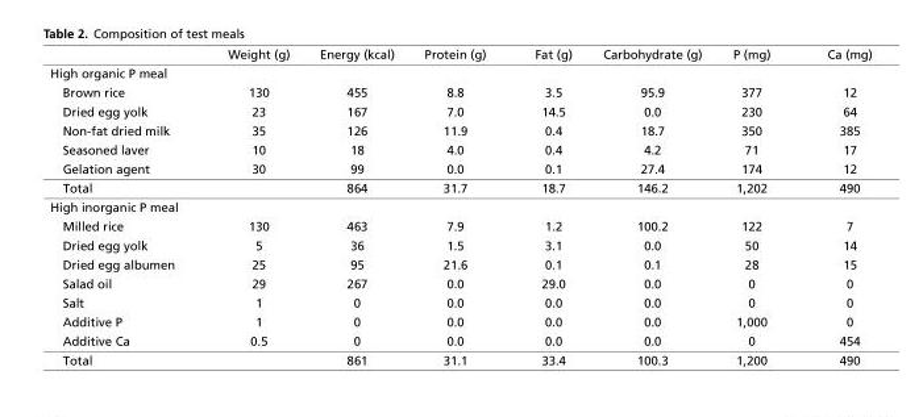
<table><thead><tr><td></td><td>Weight (g)</td><td>Energy (kcal)</td><td>Protein (g)</td><td>Fat (g)</td><td>Carbohydrate (g)</td><td>P (mg)</td><td>Ca (mg)</td></tr></thead><tbody><tr><td colspan="8">High organic P meal</td></tr><tr><td>Brown rice</td><td>130</td><td>455</td><td>8.8</td><td>3.5</td><td>95.9</td><td>377</td><td>12</td></tr><tr><td>Dried egg yolk</td><td>23</td><td>167</td><td>7.0</td><td>14.5</td><td>0.0</td><td>230</td><td>64</td></tr><tr><td>Non-fat dried milk</td><td>35</td><td>126</td><td>11.9</td><td>0.4</td><td>18.7</td><td>350</td><td>385</td></tr><tr><td>Seasoned laver</td><td>10</td><td>18</td><td>4.0</td><td>0.4</td><td>4.2</td><td>71</td><td>17</td></tr><tr><td>Gelation agent</td><td>30</td><td>99</td><td>0.0</td><td>0.1</td><td>27.4</td><td>174</td><td>12</td></tr><tr><td>Total</td><td></td><td>864</td><td>31.7</td><td>18.7</td><td>146.2</td><td>1,202</td><td>490</td></tr><tr><td colspan="8">High inorganic P meal</td></tr><tr><td>Milled rice</td><td>130</td><td>463</td><td>7.9</td><td>1.2</td><td>100.2</td><td>122</td><td>7</td></tr><tr><td>Dried egg yolk</td><td>5</td><td>36</td><td>1.5</td><td>3.1</td><td>0.0</td><td>50</td><td>14</td></tr><tr><td>Dried egg albumen</td><td>25</td><td>95</td><td>21.6</td><td>0.1</td><td>0.1</td><td>28</td><td>15</td></tr><tr><td>Salad oil</td><td>29</td><td>267</td><td>0.0</td><td>29.0</td><td>0.0</td><td>0</td><td>0</td></tr><tr><td>Salt</td><td>1</td><td>0</td><td>0.0</td><td>0.0</td><td>0.0</td><td>0</td><td>0</td></tr><tr><td>Additive P</td><td>1</td><td>0</td><td>0.0</td><td>0.0</td><td>0.0</td><td>1,000</td><td>0</td></tr><tr><td>Additive Ca</td><td>0.5</td><td>0</td><td>0.0</td><td>0.0</td><td>0.0</td><td>0</td><td>454</td></tr><tr><td>Total</td><td></td><td>861</td><td>31.1</td><td>33.4</td><td>100.3</td><td>1,200</td><td>490</td></tr></tbody></table>